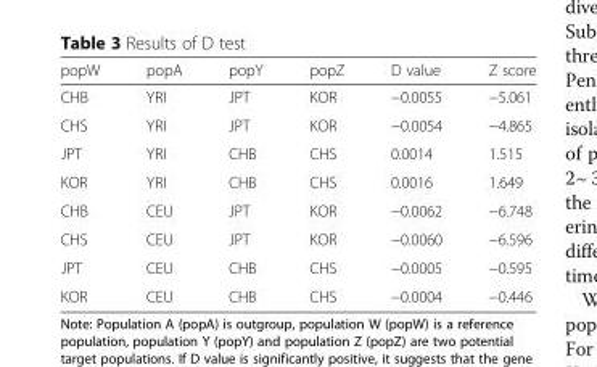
<table><thead><tr><td>popW</td><td>popA</td><td>popY</td><td>popZ</td><td>D value</td><td>Z score</td></tr></thead><tbody><tr><td>CHB</td><td>YRI</td><td>JPT</td><td>KOR</td><td>−0.0055</td><td>−5.061</td></tr><tr><td>CHS</td><td>YRI</td><td>JPT</td><td>KOR</td><td>−0.0054</td><td>−4.865</td></tr><tr><td>JPT</td><td>YRI</td><td>CHB</td><td>CHS</td><td>0.0014</td><td>1.515</td></tr><tr><td>KOR</td><td>YRI</td><td>CHB</td><td>CHS</td><td>0.0016</td><td>1.649</td></tr><tr><td>CHB</td><td>CEU</td><td>JPT</td><td>KOR</td><td>−0.0062</td><td>−6.748</td></tr><tr><td>CHS</td><td>CEU</td><td>JPT</td><td>KOR</td><td>−0.0060</td><td>−6.596</td></tr><tr><td>JPT</td><td>CEU</td><td>CHB</td><td>CHS</td><td>−0.0005</td><td>−0.595</td></tr><tr><td>KOR</td><td>CEU</td><td>CHB</td><td>CHS</td><td>−0.0004</td><td>−0.446</td></tr></tbody></table>